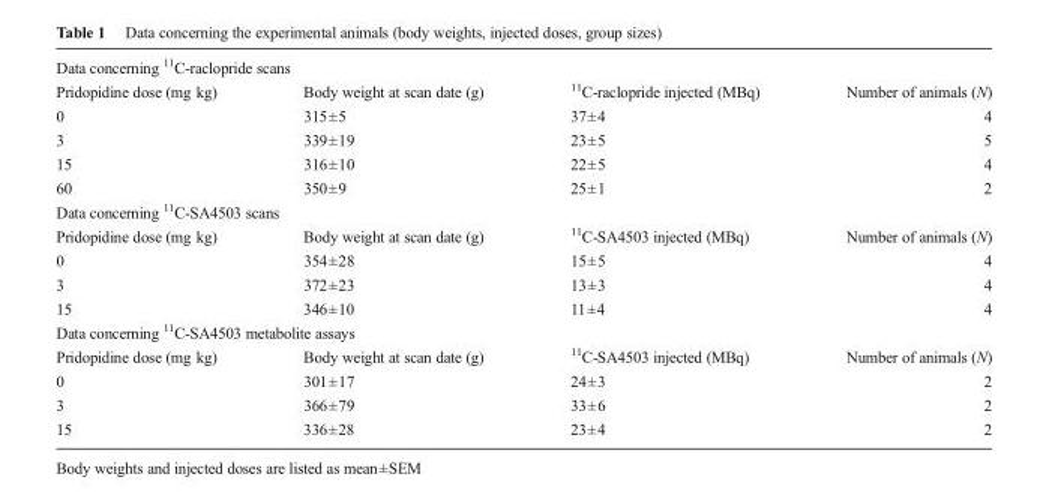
<table><tbody><tr><td colspan="4">Data concerning <sup>11</sup>C-raclopride scans</td></tr><tr><td>Pridopidine dose (mg kg)</td><td>Body weight at scan date (g)</td><td><sup>11</sup>C-raclopride injected (MBq)</td><td>Number of animals (N)</td></tr><tr><td>0</td><td>315±5</td><td>37±4</td><td>4</td></tr><tr><td>3</td><td>339±19</td><td>23±5</td><td>5</td></tr><tr><td>15</td><td>316±10</td><td>22±5</td><td>4</td></tr><tr><td>60</td><td>350±9</td><td>25±1</td><td>2</td></tr><tr><td colspan="4">Data concerning <sup>11</sup>C-SA4503 scans</td></tr><tr><td>Pridopidine dose (mg kg)</td><td>Body weight at scan date (g)</td><td><sup>11</sup>C-SA4503 injected (MBq)</td><td>Number of animals (N)</td></tr><tr><td>0</td><td>354±28</td><td>15±5</td><td>4</td></tr><tr><td>3</td><td>372±23</td><td>13±3</td><td>4</td></tr><tr><td>15</td><td>346±10</td><td>11±4</td><td>4</td></tr><tr><td colspan="4">Data concerning <sup>11</sup>C-SA4503 metabolite assays</td></tr><tr><td>Pridopidine dose (mg kg)</td><td>Body weight at scan date (g)</td><td><sup>11</sup>C-SA4503 injected (MBq)</td><td>Number of animals (N)</td></tr><tr><td>0</td><td>301±17</td><td>24±3</td><td>2</td></tr><tr><td>3</td><td>366±79</td><td>33±6</td><td>2</td></tr><tr><td>15</td><td>336±28</td><td>23±4</td><td>2</td></tr></tbody></table>